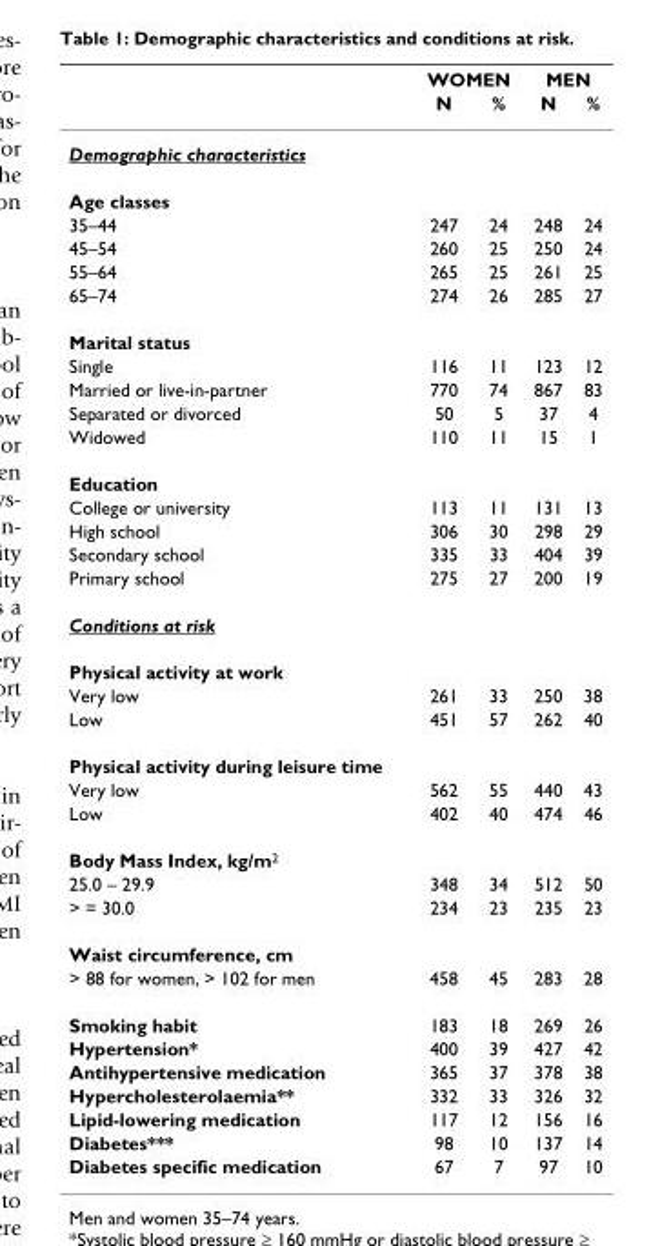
<table><thead><tr><td rowspan="2"></td><td colspan="2">WOMEN</td><td colspan="2">MEN</td></tr><tr><td>N</td><td>%</td><td>N</td><td>%</td></tr></thead><tbody><tr><td colspan="5">Demographic characteristics</td></tr><tr><td colspan="5">Age classes</td></tr><tr><td>35–44</td><td>247</td><td>24</td><td>248</td><td>24</td></tr><tr><td>45–54</td><td>260</td><td>25</td><td>250</td><td>24</td></tr><tr><td>55–64</td><td>265</td><td>25</td><td>261</td><td>25</td></tr><tr><td>65–74</td><td>274</td><td>26</td><td>285</td><td>27</td></tr><tr><td colspan="5">Marital status</td></tr><tr><td>Single</td><td>116</td><td>11</td><td>123</td><td>12</td></tr><tr><td>Married or live-in-partner</td><td>770</td><td>74</td><td>867</td><td>83</td></tr><tr><td>Separated or divorced</td><td>50</td><td>5</td><td>37</td><td>4</td></tr><tr><td>Widowed</td><td>110</td><td>11</td><td>15</td><td>1</td></tr><tr><td colspan="5">Education</td></tr><tr><td>College or university</td><td>113</td><td>11</td><td>131</td><td>13</td></tr><tr><td>High school</td><td>306</td><td>30</td><td>298</td><td>29</td></tr><tr><td>Secondary school</td><td>335</td><td>33</td><td>404</td><td>39</td></tr><tr><td>Primary school</td><td>275</td><td>27</td><td>200</td><td>19</td></tr><tr><td colspan="5">Conditions at risk</td></tr><tr><td colspan="5">Physical activity at work</td></tr><tr><td>Very low</td><td>261</td><td>33</td><td>250</td><td>38</td></tr><tr><td>Low</td><td>451</td><td>57</td><td>262</td><td>40</td></tr><tr><td colspan="5">Physical activity during leisure time</td></tr><tr><td>Very low</td><td>562</td><td>55</td><td>440</td><td>43</td></tr><tr><td>Low</td><td>402</td><td>40</td><td>474</td><td>46</td></tr><tr><td colspan="5">Body Mass Index, kg/m<sup>2</sup></td></tr><tr><td>25.0 – 29.9</td><td>348</td><td>34</td><td>512</td><td>50</td></tr><tr><td>&gt; = 30.0</td><td>234</td><td>23</td><td>235</td><td>23</td></tr><tr><td colspan="5">Waist circumference, cm</td></tr><tr><td>&gt; 88 for women, &gt; 102 for men</td><td>458</td><td>45</td><td>283</td><td>28</td></tr><tr><td>Smoking habit</td><td>183</td><td>18</td><td>269</td><td>26</td></tr><tr><td>Hypertension*</td><td>400</td><td>39</td><td>427</td><td>42</td></tr><tr><td>Antihypertensive medication</td><td>365</td><td>37</td><td>378</td><td>38</td></tr><tr><td>Hypercholesterolaemia**</td><td>332</td><td>33</td><td>326</td><td>32</td></tr><tr><td>Lipid-lowering medication</td><td>117</td><td>12</td><td>156</td><td>16</td></tr><tr><td>Diabetes***</td><td>98</td><td>10</td><td>137</td><td>14</td></tr><tr><td>Diabetes specific medication</td><td>67</td><td>7</td><td>97</td><td>10</td></tr></tbody></table>